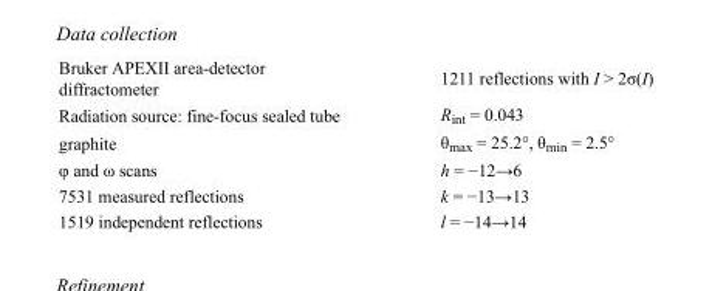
<table><tbody><tr><td>Bruker APEXII area-detector diffractometer</td><td>1211 reflections with I &gt; 2σ(I)</td></tr><tr><td>Radiation source: fine-focus sealed tube</td><td>R<sub>int</sub> = 0.043</td></tr><tr><td>graphite</td><td>θ<sub>max</sub> = 25.2°, θ<sub>min</sub> = 2.5°</td></tr><tr><td>φ and ω scans</td><td>h = −12→6</td></tr><tr><td>7531 measured reflections</td><td>k = −13→13</td></tr><tr><td>1519 independent reflections</td><td>l = −14→14</td></tr></tbody></table>